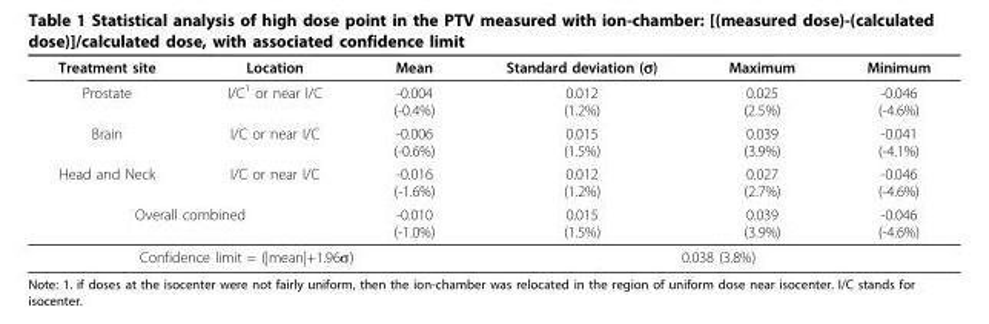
<table><thead><tr><td>Treatment site</td><td>Location</td><td>Mean</td><td>Standard deviation (σ)</td><td>Maximum</td><td>Minimum</td></tr></thead><tbody><tr><td>Prostate</td><td>I/C<sup>1</sup> or near I/C</td><td>-0.004 (-0.4%)</td><td>0.012 (1.2%)</td><td>0.025 (2.5%)</td><td>-0.046 (-4.6%)</td></tr><tr><td>Brain</td><td>I/C or near I/C</td><td>-0.006 (-0.6%)</td><td>0.015 (1.5%)</td><td>0.039 (3.9%)</td><td>-0.041 (-4.1%)</td></tr><tr><td>Head and Neck</td><td>I/C or near I/C</td><td>-0.016 (-1.6%)</td><td>0.012 (1.2%)</td><td>0.027 (2.7%)</td><td>-0.046 (-4.6%)</td></tr><tr><td colspan="2">Overall combined</td><td>-0.010 (-1.0%)</td><td>0.015 (1.5%)</td><td>0.039 (3.9%)</td><td>-0.046 (-4.6%)</td></tr><tr><td colspan="3">Confidence limit = (|mean|+1.96σ)</td><td colspan="3">0.038 (3.8%)</td></tr></tbody></table>